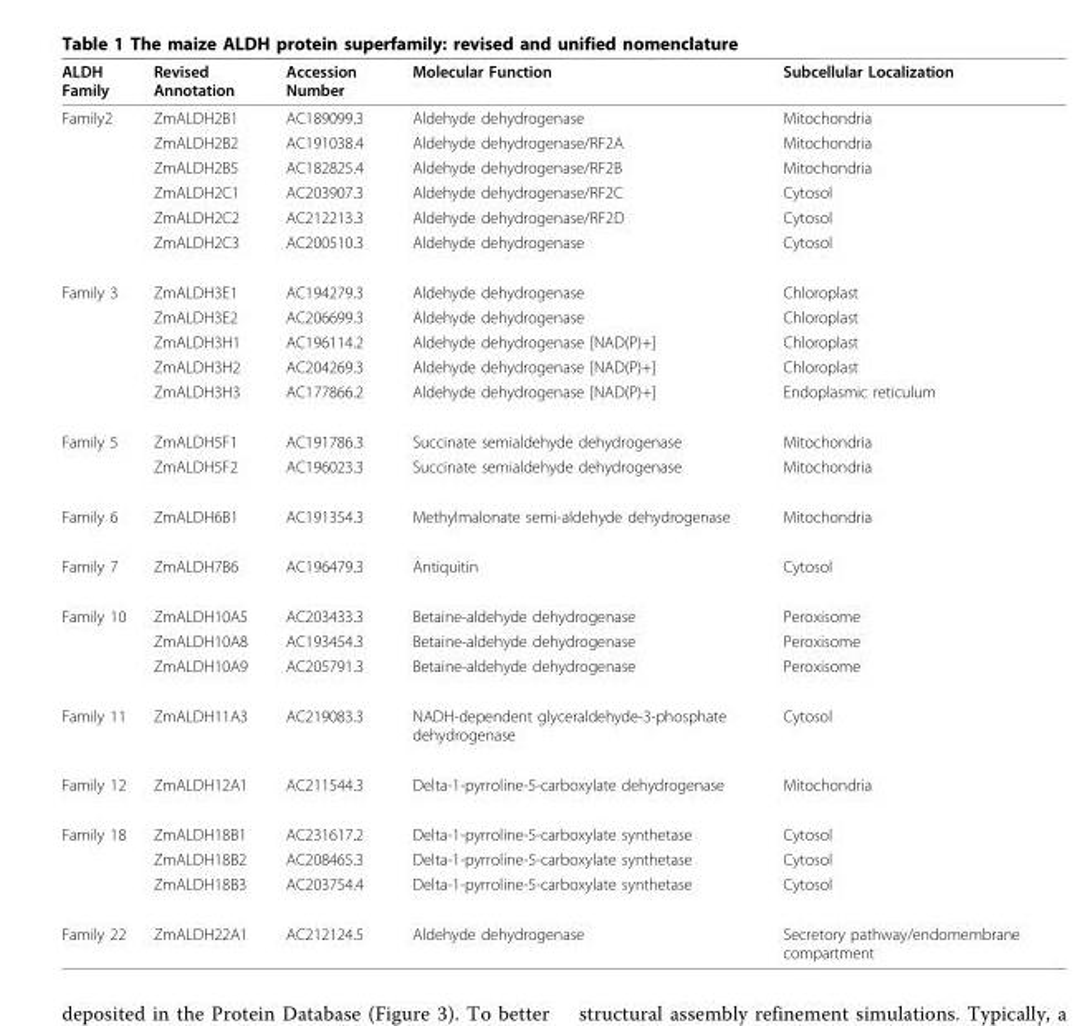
<table><thead><tr><td>ALDH Family</td><td>Revised Annotation</td><td>Accession Number</td><td>Molecular Function</td><td>Subcellular Localization</td></tr></thead><tbody><tr><td rowspan="6">Family2</td><td>ZmALDH2B1</td><td>AC189099.3</td><td>Aldehyde dehydrogenase</td><td>Mitochondria</td></tr><tr><td>ZmALDH2B2</td><td>AC191038.4</td><td>Aldehyde dehydrogenase/RF2A</td><td>Mitochondria</td></tr><tr><td>ZmALDH2B5</td><td>AC182825.4</td><td>Aldehyde dehydrogenase/RF2B</td><td>Mitochondria</td></tr><tr><td>ZmALDH2C1</td><td>AC203907.3</td><td>Aldehyde dehydrogenase/RF2C</td><td>Cytosol</td></tr><tr><td>ZmALDH2C2</td><td>AC212213.3</td><td>Aldehyde dehydrogenase/RF2D</td><td>Cytosol</td></tr><tr><td>ZmALDH2C3</td><td>AC200510.3</td><td>Aldehyde dehydrogenase</td><td>Cytosol</td></tr><tr><td rowspan="5">Family 3</td><td>ZmALDH3E1</td><td>AC194279.3</td><td>Aldehyde dehydrogenase</td><td>Chloroplast</td></tr><tr><td>ZmALDH3E2</td><td>AC206699.3</td><td>Aldehyde dehydrogenase</td><td>Chloroplast</td></tr><tr><td>ZmALDH3H1</td><td>AC196114.2</td><td>Aldehyde dehydrogenase [NAD(P)+]</td><td>Chloroplast</td></tr><tr><td>ZmALDH3H2</td><td>AC204269.3</td><td>Aldehyde dehydrogenase [NAD(P)+]</td><td>Chloroplast</td></tr><tr><td>ZmALDH3H3</td><td>AC177866.2</td><td>Aldehyde dehydrogenase [NAD(P)+]</td><td>Endoplasmic reticulum</td></tr><tr><td rowspan="2">Family 5</td><td>ZmALDH5F1</td><td>AC191786.3</td><td>Succinate semialdehyde dehydrogenase</td><td>Mitochondria</td></tr><tr><td>ZmALDH5F2</td><td>AC196023.3</td><td>Succinate semialdehyde dehydrogenase</td><td>Mitochondria</td></tr><tr><td>Family 6</td><td>ZmALDH6B1</td><td>AC191354.3</td><td>Methylmalonate semi-aldehyde dehydrogenase</td><td>Mitochondria</td></tr><tr><td>Family 7</td><td>ZmALDH7B6</td><td>AC196479.3</td><td>Antiquitin</td><td>Cytosol</td></tr><tr><td rowspan="3">Family 10</td><td>ZmALDH10A5</td><td>AC203433.3</td><td>Betaine-aldehyde dehydrogenase</td><td>Peroxisome</td></tr><tr><td>ZmALDH10A8</td><td>AC193454.3</td><td>Betaine-aldehyde dehydrogenase</td><td>Peroxisome</td></tr><tr><td>ZmALDH10A9</td><td>AC205791.3</td><td>Betaine-aldehyde dehydrogenase</td><td>Peroxisome</td></tr><tr><td>Family 11</td><td>ZmALDH11A3</td><td>AC219083.3</td><td>NADH-dependent glyceraldehyde-3-phosphate dehydrogenase</td><td>Cytosol</td></tr><tr><td>Family 12</td><td>ZmALDH12A1</td><td>AC211544.3</td><td>Delta-1-pyrroline-5-carboxylate dehydrogenase</td><td>Mitochondria</td></tr><tr><td rowspan="3">Family 18</td><td>ZmALDH18B1</td><td>AC231617.2</td><td>Delta-1-pyrroline-5-carboxylate synthetase</td><td>Cytosol</td></tr><tr><td>ZmALDH18B2</td><td>AC208465.3</td><td>Delta-1-pyrroline-5-carboxylate synthetase</td><td>Cytosol</td></tr><tr><td>ZmALDH18B3</td><td>AC203754.4</td><td>Delta-1-pyrroline-5-carboxylate synthetase</td><td>Cytosol</td></tr><tr><td>Family 22</td><td>ZmALDH22A1</td><td>AC212124.5</td><td>Aldehyde dehydrogenase</td><td>Secretory pathway/endomembrane compartment</td></tr></tbody></table>